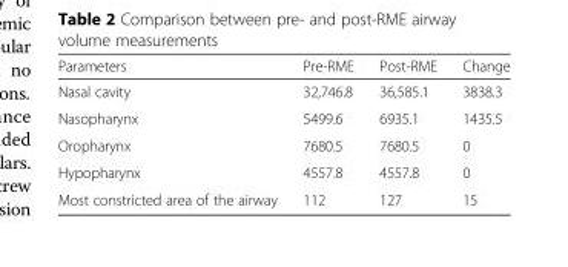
<table><thead><tr><td>Parameters</td><td>Pre-RME</td><td>Post-RME</td><td>Change</td></tr></thead><tbody><tr><td>Nasal cavity</td><td>32,746.8</td><td>36,585.1</td><td>3838.3</td></tr><tr><td>Nasopharynx</td><td>5499.6</td><td>6935.1</td><td>1435.5</td></tr><tr><td>Oropharynx</td><td>7680.5</td><td>7680.5</td><td>0</td></tr><tr><td>Hypopharynx</td><td>4557.8</td><td>4557.8</td><td>0</td></tr><tr><td>Most constricted area of the airway</td><td>112</td><td>127</td><td>15</td></tr></tbody></table>